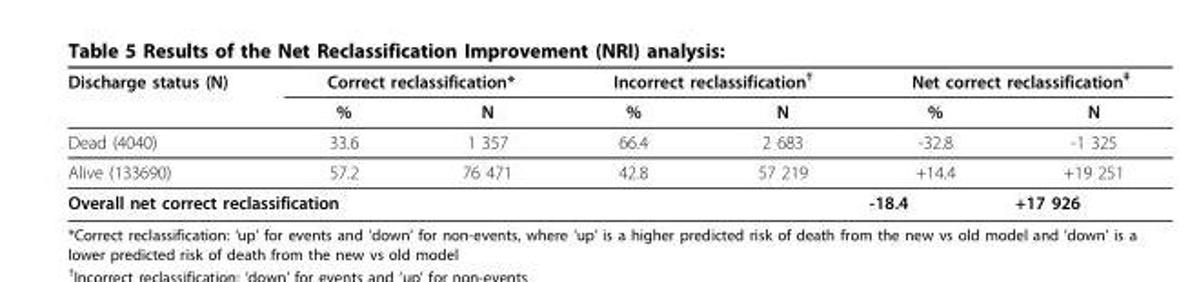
<table><thead><tr><td rowspan="2">Discharge status (N)</td><td colspan="2">Correct reclassification*</td><td colspan="2">Incorrect reclassification<sup>†</sup></td><td colspan="2">Net correct reclassification<sup>‡</sup></td></tr><tr><td>%</td><td>N</td><td>%</td><td>N</td><td>%</td><td>N</td></tr></thead><tbody><tr><td>Dead (4040)</td><td>33.6</td><td>1 357</td><td>66.4</td><td>2 683</td><td>-32.8</td><td>-1 325</td></tr><tr><td>Alive (133690)</td><td>57.2</td><td>76 471</td><td>42.8</td><td>57 219</td><td>+14.4</td><td>+19 251</td></tr><tr><td colspan="5">Overall net correct reclassification</td><td>-18.4</td><td>+17 926</td></tr></tbody></table>